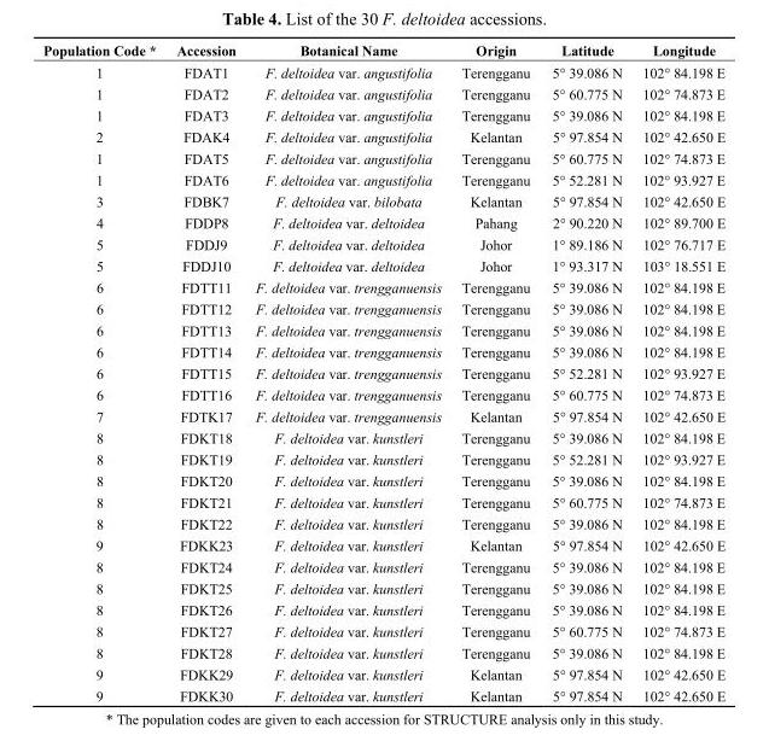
<table><thead><tr><td>Population Code *</td><td>Accession</td><td>Botanical Name</td><td>Origin</td><td>Latitude</td><td>Longitude</td></tr></thead><tbody><tr><td>1</td><td>FDAT1</td><td>F. deltoidea var. angustifolia</td><td>Terengganu</td><td>5° 39.086 N</td><td>102° 84.198 E</td></tr><tr><td>1</td><td>FDAT2</td><td>F. deltoidea var. angustifolia</td><td>Terengganu</td><td>5° 60.775 N</td><td>102° 74.873 E</td></tr><tr><td>1</td><td>FDAT3</td><td>F. deltoidea var. angustifolia</td><td>Terengganu</td><td>5° 39.086 N</td><td>102° 84.198 E</td></tr><tr><td>2</td><td>FDAK4</td><td>F. deltoidea var. angustifolia</td><td>Kelantan</td><td>5° 97.854 N</td><td>102° 42.650 E</td></tr><tr><td>1</td><td>FDAT5</td><td>F. deltoidea var. angustifolia</td><td>Terengganu</td><td>5° 60.775 N</td><td>102° 74.873 E</td></tr><tr><td>1</td><td>FDAT6</td><td>F. deltoidea var. angustifolia</td><td>Terengganu</td><td>5° 52.281 N</td><td>102° 93.927 E</td></tr><tr><td>3</td><td>FDBK7</td><td>F. deltoidea var. bilobata</td><td>Kelantan</td><td>5° 97.854 N</td><td>102° 42.650 E</td></tr><tr><td>4</td><td>FDDP8</td><td>F. deltoidea var. deltoidea</td><td>Pahang</td><td>2° 90.220 N</td><td>102° 89.700 E</td></tr><tr><td>5</td><td>FDDJ9</td><td>F. deltoidea var. deltoidea</td><td>Johor</td><td>1° 89.186 N</td><td>102° 76.717 E</td></tr><tr><td>5</td><td>FDDJ10</td><td>F. deltoidea var. deltoidea</td><td>Johor</td><td>1° 93.317 N</td><td>103° 18.551 E</td></tr><tr><td>6</td><td>FDTT11</td><td>F. deltoidea var. trengganuensis</td><td>Terengganu</td><td>5° 39.086 N</td><td>102° 84.198 E</td></tr><tr><td>6</td><td>FDTT12</td><td>F. deltoidea var. trengganuensis</td><td>Terengganu</td><td>5° 39.086 N</td><td>102° 84.198 E</td></tr><tr><td>6</td><td>FDTT13</td><td>F. deltoidea var. trengganuensis</td><td>Terengganu</td><td>5° 39.086 N</td><td>102° 84.198 E</td></tr><tr><td>6</td><td>FDTT14</td><td>F. deltoidea var. trengganuensis</td><td>Terengganu</td><td>5° 39.086 N</td><td>102° 84.198 E</td></tr><tr><td>6</td><td>FDTT15</td><td>F. deltoidea var. trengganuensis</td><td>Terengganu</td><td>5° 52.281 N</td><td>102° 93.927 E</td></tr><tr><td>6</td><td>FDTT16</td><td>F. deltoidea var. trengganuensis</td><td>Terengganu</td><td>5° 60.775 N</td><td>102° 74.873 E</td></tr><tr><td>7</td><td>FDTK17</td><td>F. deltoidea var. trengganuensis</td><td>Kelantan</td><td>5° 97.854 N</td><td>102° 42.650 E</td></tr><tr><td>8</td><td>FDKT18</td><td>F. deltoidea var. kunstleri</td><td>Terengganu</td><td>5° 39.086 N</td><td>102° 84.198 E</td></tr><tr><td>8</td><td>FDKT19</td><td>F. deltoidea var. kunstleri</td><td>Terengganu</td><td>5° 52.281 N</td><td>102° 93.927 E</td></tr><tr><td>8</td><td>FDKT20</td><td>F. deltoidea var. kunstleri</td><td>Terengganu</td><td>5° 39.086 N</td><td>102° 84.198 E</td></tr><tr><td>8</td><td>FDKT21</td><td>F. deltoidea var. kunstleri</td><td>Terengganu</td><td>5° 60.775 N</td><td>102° 74.873 E</td></tr><tr><td>8</td><td>FDKT22</td><td>F. deltoidea var. kunstleri</td><td>Terengganu</td><td>5° 39.086 N</td><td>102° 84.198 E</td></tr><tr><td>9</td><td>FDKK23</td><td>F. deltoidea var. kunstleri</td><td>Kelantan</td><td>5° 97.854 N</td><td>102° 42.650 E</td></tr><tr><td>8</td><td>FDKT24</td><td>F. deltoidea var. kunstleri</td><td>Terengganu</td><td>5° 39.086 N</td><td>102° 84.198 E</td></tr><tr><td>8</td><td>FDKT25</td><td>F. deltoidea var. kunstleri</td><td>Terengganu</td><td>5° 39.086 N</td><td>102° 84.198 E</td></tr><tr><td>8</td><td>FDKT26</td><td>F. deltoidea var. kunstleri</td><td>Terengganu</td><td>5° 39.086 N</td><td>102° 84.198 E</td></tr><tr><td>8</td><td>FDKT27</td><td>F. deltoidea var. kunstleri</td><td>Terengganu</td><td>5° 60.775 N</td><td>102° 74.873 E</td></tr><tr><td>8</td><td>FDKT28</td><td>F. deltoidea var. kunstleri</td><td>Terengganu</td><td>5° 39.086 N</td><td>102° 84.198 E</td></tr><tr><td>9</td><td>FDKK29</td><td>F. deltoidea var. kunstleri</td><td>Kelantan</td><td>5° 97.854 N</td><td>102° 42.650 E</td></tr><tr><td>9</td><td>FDKK30</td><td>F. deltoidea var. kunstleri</td><td>Kelantan</td><td>5° 97.854 N</td><td>102° 42.650 E</td></tr></tbody></table>